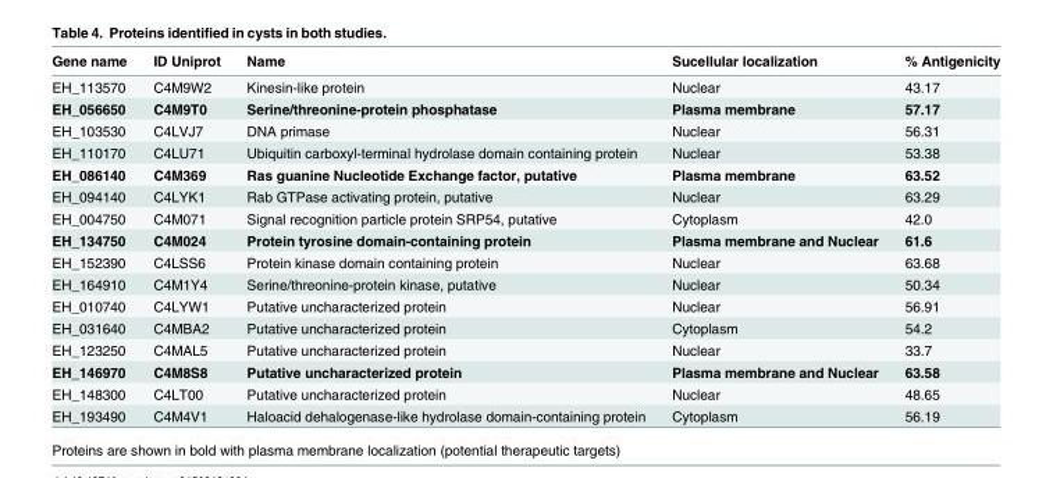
<table><thead><tr><td>Gene name</td><td>ID Uniprot</td><td>Name</td><td>Sucellular localization</td><td>% Antigenicity</td></tr></thead><tbody><tr><td>EH_113570</td><td>C4M9W2</td><td>Kinesin-like protein</td><td>Nuclear</td><td>43.17</td></tr><tr><td>EH_056650</td><td>C4M9T0</td><td>Serine/threonine-protein phosphatase</td><td>Plasma membrane</td><td>57.17</td></tr><tr><td>EH_103530</td><td>C4LVJ7</td><td>DNA primase</td><td>Nuclear</td><td>56.31</td></tr><tr><td>EH_110170</td><td>C4LU71</td><td>Ubiquitin carboxyl-terminal hydrolase domain containing protein</td><td>Nuclear</td><td>53.38</td></tr><tr><td>EH_086140</td><td>C4M369</td><td>Ras guanine Nucleotide Exchange factor, putative</td><td>Plasma membrane</td><td>63.52</td></tr><tr><td>EH_094140</td><td>C4LYK1</td><td>Rab GTPase activating protein, putative</td><td>Nuclear</td><td>63.29</td></tr><tr><td>EH_004750</td><td>C4M071</td><td>Signal recognition particle protein SRP54, putative</td><td>Cytoplasm</td><td>42.0</td></tr><tr><td>EH_134750</td><td>C4M024</td><td>Protein tyrosine domain-containing protein</td><td>Plasma membrane and Nuclear</td><td>61.6</td></tr><tr><td>EH_152390</td><td>C4LSS6</td><td>Protein kinase domain containing protein</td><td>Nuclear</td><td>63.68</td></tr><tr><td>EH_164910</td><td>C4M1Y4</td><td>Serine/threonine-protein kinase, putative</td><td>Nuclear</td><td>50.34</td></tr><tr><td>EH_010740</td><td>C4LYW1</td><td>Putative uncharacterized protein</td><td>Nuclear</td><td>56.91</td></tr><tr><td>EH_031640</td><td>C4MBA2</td><td>Putative uncharacterized protein</td><td>Cytoplasm</td><td>54.2</td></tr><tr><td>EH_123250</td><td>C4MAL5</td><td>Putative uncharacterized protein</td><td>Nuclear</td><td>33.7</td></tr><tr><td>EH_146970</td><td>C4M8S8</td><td>Putative uncharacterized protein</td><td>Plasma membrane and Nuclear</td><td>63.58</td></tr><tr><td>EH_148300</td><td>C4LT00</td><td>Putative uncharacterized protein</td><td>Nuclear</td><td>48.65</td></tr><tr><td>EH_193490</td><td>C4M4V1</td><td>Haloacid dehalogenase-like hydrolase domain-containing protein</td><td>Cytoplasm</td><td>56.19</td></tr></tbody></table>